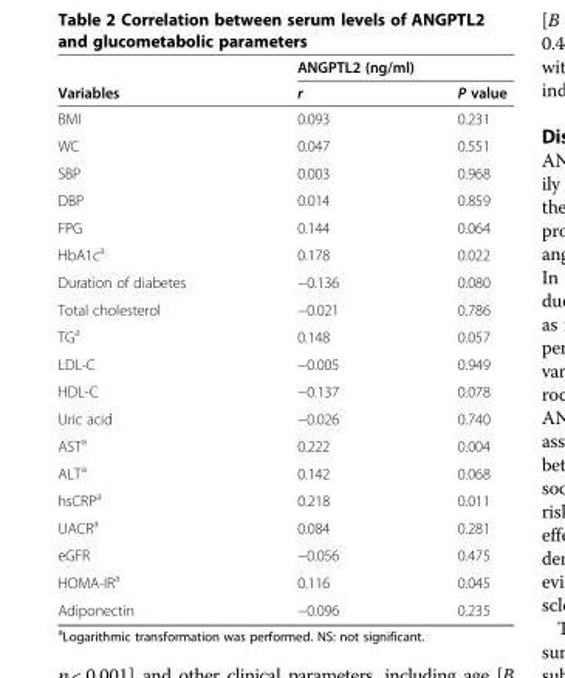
<table><thead><tr><td rowspan="2">Variables</td><td colspan="2">ANGPTL2 (ng/ml)</td></tr><tr><td>r</td><td>P value</td></tr></thead><tbody><tr><td>BMI</td><td>0.093</td><td>0.231</td></tr><tr><td>WC</td><td>0.047</td><td>0.551</td></tr><tr><td>SBP</td><td>0.003</td><td>0.968</td></tr><tr><td>DBP</td><td>0.014</td><td>0.859</td></tr><tr><td>FPG</td><td>0.144</td><td>0.064</td></tr><tr><td>HbA1c<sup>a</sup></td><td>0.178</td><td>0.022</td></tr><tr><td>Duration of diabetes</td><td>−0.136</td><td>0.080</td></tr><tr><td>Total cholesterol</td><td>−0.021</td><td>0.786</td></tr><tr><td>TG<sup>a</sup></td><td>0.148</td><td>0.057</td></tr><tr><td>LDL-C</td><td>−0.005</td><td>0.949</td></tr><tr><td>HDL-C</td><td>−0.137</td><td>0.078</td></tr><tr><td>Uric acid</td><td>−0.026</td><td>0.740</td></tr><tr><td>AST<sup>a</sup></td><td>0.222</td><td>0.004</td></tr><tr><td>ALT<sup>a</sup></td><td>0.142</td><td>0.068</td></tr><tr><td>hsCRP<sup>a</sup></td><td>0.218</td><td>0.011</td></tr><tr><td>UACR<sup>a</sup></td><td>0.084</td><td>0.281</td></tr><tr><td>eGFR</td><td>−0.056</td><td>0.475</td></tr><tr><td>HOMA-IR<sup>a</sup></td><td>0.116</td><td>0.045</td></tr><tr><td>Adiponectin</td><td>−0.096</td><td>0.235</td></tr></tbody></table>